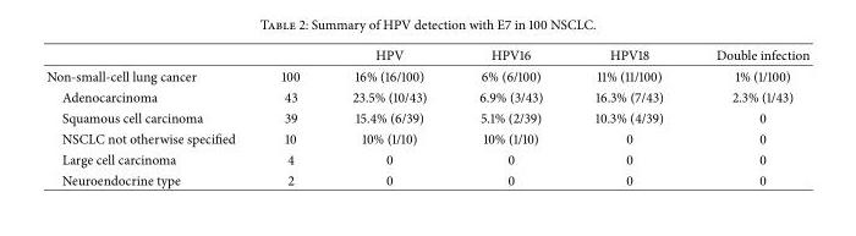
<table><thead><tr><td></td><td></td><td>HPV</td><td>HPV16</td><td>HPV18</td><td>Double infection</td></tr></thead><tbody><tr><td>Non-small-cell lung cancer</td><td>100</td><td>16% (16/100)</td><td>6% (6/100)</td><td>11% (11/100)</td><td>1% (1/100)</td></tr><tr><td>Adenocarcinoma</td><td>43</td><td>23.5% (10/43)</td><td>6.9% (3/43)</td><td>16.3% (7/43)</td><td>2.3% (1/43)</td></tr><tr><td>Squamous cell carcinoma</td><td>39</td><td>15.4% (6/39)</td><td>5.1% (2/39)</td><td>10.3% (4/39)</td><td>0</td></tr><tr><td>NSCLC not otherwise specified</td><td>10</td><td>10% (1/10)</td><td>10% (1/10)</td><td>0</td><td>0</td></tr><tr><td>Large cell carcinoma</td><td>4</td><td>0</td><td>0</td><td>0</td><td>0</td></tr><tr><td>Neuroendocrine type</td><td>2</td><td>0</td><td>0</td><td>0</td><td>0</td></tr></tbody></table>